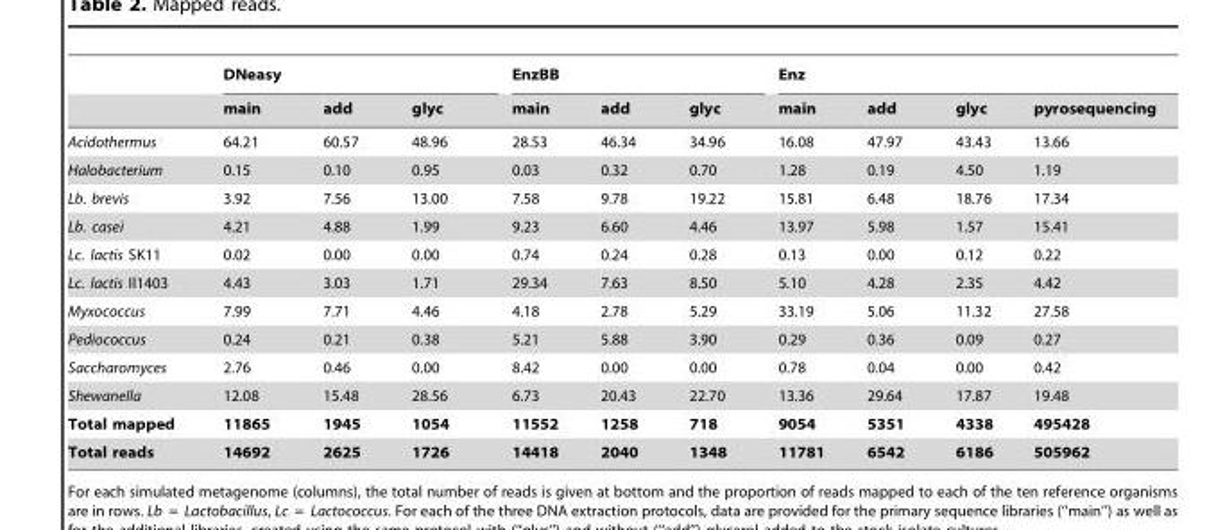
<table><thead><tr><td rowspan="2"></td><td colspan="3">DNeasy</td><td colspan="3">EnzBB</td><td colspan="4">Enz</td></tr><tr><td>main</td><td>add</td><td>glyc</td><td>main</td><td>add</td><td>glyc</td><td>main</td><td>add</td><td>glyc</td><td>pyrosequencing</td></tr></thead><tbody><tr><td>Acidothermus</td><td>64.21</td><td>60.57</td><td>48.96</td><td>28.53</td><td>46.34</td><td>34.96</td><td>16.08</td><td>47.97</td><td>43.43</td><td>13.66</td></tr><tr><td>Halobacterium</td><td>0.15</td><td>0.10</td><td>0.95</td><td>0.03</td><td>0.32</td><td>0.70</td><td>1.28</td><td>0.19</td><td>4.50</td><td>1.19</td></tr><tr><td>Lb. brevis</td><td>3.92</td><td>7.56</td><td>13.00</td><td>7.58</td><td>9.78</td><td>19.22</td><td>15.81</td><td>6.48</td><td>18.76</td><td>17.34</td></tr><tr><td>Lb. casei</td><td>4.21</td><td>4.88</td><td>1.99</td><td>9.23</td><td>6.60</td><td>4.46</td><td>13.97</td><td>5.98</td><td>1.57</td><td>15.41</td></tr><tr><td>Lc. lactis SK11</td><td>0.02</td><td>0.00</td><td>0.00</td><td>0.74</td><td>0.24</td><td>0.28</td><td>0.13</td><td>0.00</td><td>0.12</td><td>0.22</td></tr><tr><td>Lc. lactis Il1403</td><td>4.43</td><td>3.03</td><td>1.71</td><td>29.34</td><td>7.63</td><td>8.50</td><td>5.10</td><td>4.28</td><td>2.35</td><td>4.42</td></tr><tr><td>Myxococcus</td><td>7.99</td><td>7.71</td><td>4.46</td><td>4.18</td><td>2.78</td><td>5.29</td><td>33.19</td><td>5.06</td><td>11.32</td><td>27.58</td></tr><tr><td>Pediococcus</td><td>0.24</td><td>0.21</td><td>0.38</td><td>5.21</td><td>5.88</td><td>3.90</td><td>0.29</td><td>0.36</td><td>0.09</td><td>0.27</td></tr><tr><td>Saccharomyces</td><td>2.76</td><td>0.46</td><td>0.00</td><td>8.42</td><td>0.00</td><td>0.00</td><td>0.78</td><td>0.04</td><td>0.00</td><td>0.42</td></tr><tr><td>Shewanella</td><td>12.08</td><td>15.48</td><td>28.56</td><td>6.73</td><td>20.43</td><td>22.70</td><td>13.36</td><td>29.64</td><td>17.87</td><td>19.48</td></tr><tr><td>Total mapped</td><td>11865</td><td>1945</td><td>1054</td><td>11552</td><td>1258</td><td>718</td><td>9054</td><td>5351</td><td>4338</td><td>495428</td></tr><tr><td>Total reads</td><td>14692</td><td>2625</td><td>1726</td><td>14418</td><td>2040</td><td>1348</td><td>11781</td><td>6542</td><td>6186</td><td>505962</td></tr></tbody></table>